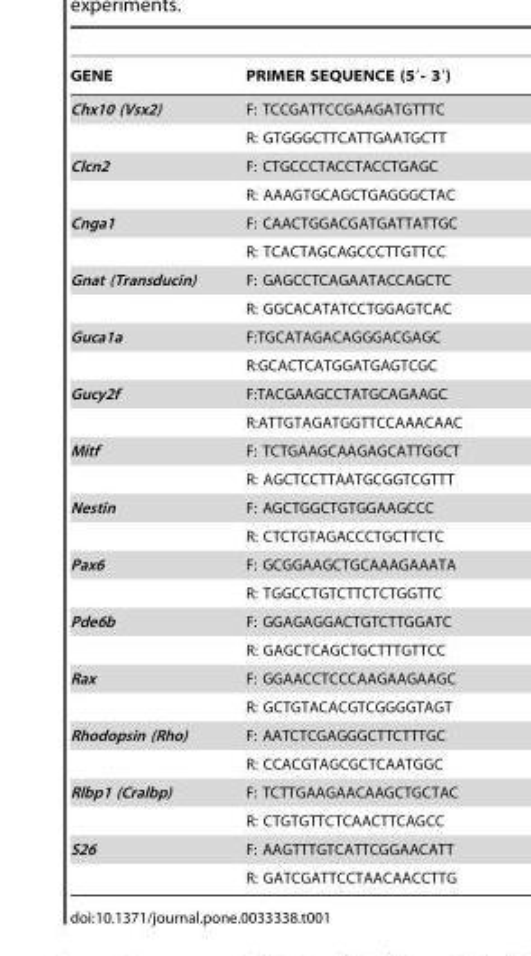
<table><thead><tr><td>GENE</td><td>PRIMER SEQUENCE (5′- 3′)</td></tr></thead><tbody><tr><td rowspan="2">Chx10 (Vsx2)</td><td>F: TCCGATTCCGAAGATGTTTC</td></tr><tr><td>R: GTGGGCTTCATTGAATGCTT</td></tr><tr><td rowspan="2">Clcn2</td><td>F: CTGCCCTACCTACCTGAGC</td></tr><tr><td>R: AAAGTGCAGCTGAGGGCTAC</td></tr><tr><td rowspan="2">Cnga1</td><td>F: CAACTGGACGATGATTATTGC</td></tr><tr><td>R: TCACTAGCAGCCCTTGTTCC</td></tr><tr><td rowspan="2">Gnat (Transducin)</td><td>F: GAGCCTCAGAATACCAGCTC</td></tr><tr><td>R: GGCACATATCCTGGAGTCAC</td></tr><tr><td rowspan="2">Guca1a</td><td>F:TGCATAGACAGGGACGAGC</td></tr><tr><td>R:GCACTCATGGATGAGTCGC</td></tr><tr><td rowspan="2">Gucy2f</td><td>F:TACGAAGCCTATGCAGAAGC</td></tr><tr><td>R:ATTGTAGATGGTTCCAAACAAC</td></tr><tr><td rowspan="2">Mitf</td><td>F: TCTGAAGCAAGAGCATTGGCT</td></tr><tr><td>R: AGCTCCTTAATGCGGTCGTTT</td></tr><tr><td rowspan="2">Nestin</td><td>F: AGCTGGCTGTGGAAGCCC</td></tr><tr><td>R: CTCTGTAGACCCTGCTTCTC</td></tr><tr><td rowspan="2">Pax6</td><td>F: GCGGAAGCTGCAAAGAAATA</td></tr><tr><td>R: TGGCCTGTCTTCTCTGGTTC</td></tr><tr><td rowspan="2">Pde6b</td><td>F: GGAGAGGACTGTCTTGGATC</td></tr><tr><td>R: GAGCTCAGCTGCTTTGTTCC</td></tr><tr><td rowspan="2">Rax</td><td>F: GGAACCTCCCAAGAAGAAGC</td></tr><tr><td>R: GCTGTACACGTCGGGGTAGT</td></tr><tr><td rowspan="2">Rhodopsin (Rho)</td><td>F: AATCTCGAGGGCTTCTTTGC</td></tr><tr><td>R: CCACGTAGCGCTCAATGGC</td></tr><tr><td rowspan="2">Rlbp1 (Cralbp)</td><td>F: TCTTGAAGAACAAGCTGCTAC</td></tr><tr><td>R: CTGTGTTCTCAACTTCAGCC</td></tr><tr><td rowspan="2">S26</td><td>F: AAGTTTGTCATTCGGAACATT</td></tr><tr><td>R: GATCGATTCCTAACAACCTTG</td></tr></tbody></table>